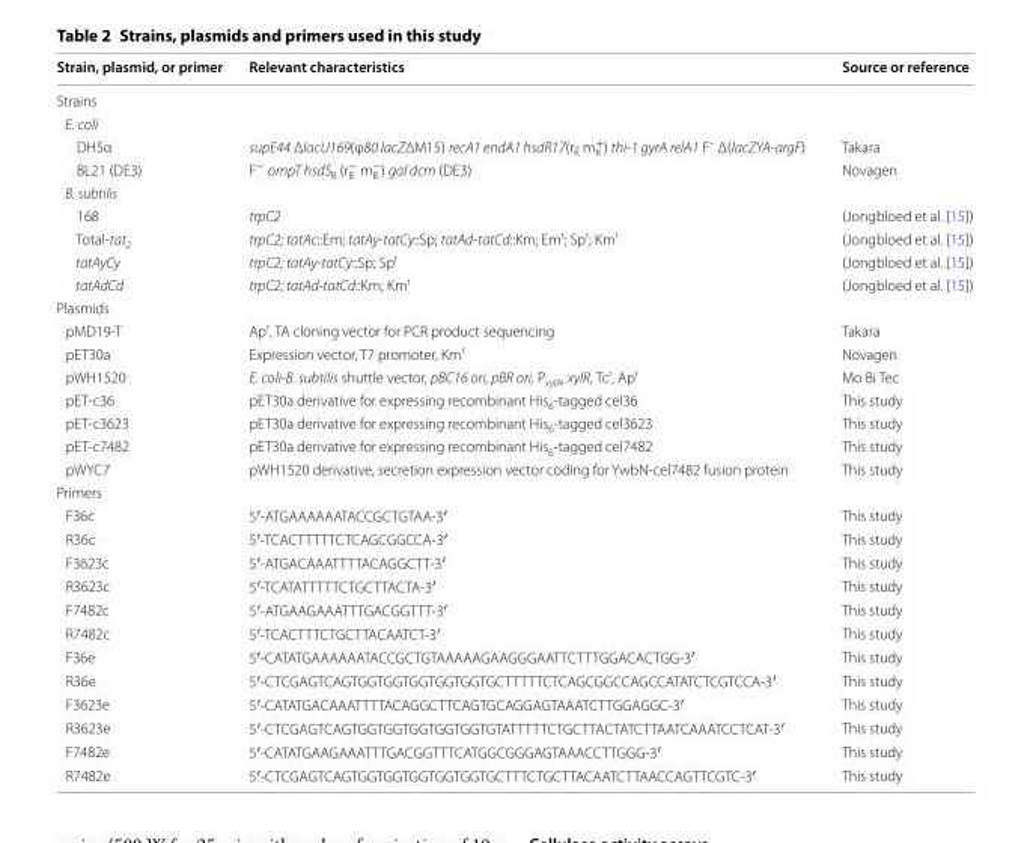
<table><thead><tr><td>Strain, plasmid, or primer</td><td>Relevant characteristics</td><td>Source or reference</td></tr></thead><tbody><tr><td colspan="3">Strains</td></tr><tr><td colspan="3">E. coli</td></tr><tr><td>DH5α</td><td>supE44 ΔlacU169(φ80 lacZΔM15) recA1 endA1 hsdR17(r<sub>K</sub> <sup>_</sup> m<sub>K</sub> <sup>+</sup>) thi‑1 gyrA relA1 F<sup>–</sup> Δ(lacZYA‑argF)</td><td>Takara</td></tr><tr><td>BL21 (DE3)</td><td>F<sup>−</sup> ompT hsdS<sub>B</sub> (r<sub>B</sub> <sup>−</sup> m<sub>B</sub> <sup>−</sup>) gal dcm (DE3)</td><td>Novagen</td></tr><tr><td colspan="3">B. subtilis</td></tr><tr><td>168</td><td>trpC2</td><td>(Jongbloed et al. [15])</td></tr><tr><td>Total‑tat<sub>2</sub></td><td>trpC2; tatAc::Em; tatAy‑tatCy::Sp; tatAd‑tatCd::Km; Em<sup>r</sup>; Sp<sup>r</sup>; Km<sup>r</sup></td><td>(Jongbloed et al. [15])</td></tr><tr><td>tatAyCy</td><td>trpC2; tatAy‑tatCy::Sp; Sp<sup>r</sup></td><td>(Jongbloed et al. [15])</td></tr><tr><td>tatAdCd</td><td>trpC2; tatAd‑tatCd::Km; Km<sup>r</sup></td><td>(Jongbloed et al. [15])</td></tr><tr><td colspan="3">Plasmids</td></tr><tr><td>pMD19‑T</td><td>Ap<sup>r</sup>, TA cloning vector for PCR product sequencing</td><td>Takara</td></tr><tr><td>pET30a</td><td>Expression vector, T7 promoter, Km<sup>r</sup></td><td>Novagen</td></tr><tr><td>pWH1520</td><td>E. coli‑B. subtilis shuttle vector, pBC16 ori, pBR ori, P<sub>xylA</sub>, xylR, Tc<sup>r</sup>, Ap<sup>r</sup></td><td>Mo Bi Tec</td></tr><tr><td>pET‑c36</td><td>pET30a derivative for expressing recombinant His<sub>6</sub>‑tagged cel36</td><td>This study</td></tr><tr><td>pET‑c3623</td><td>pET30a derivative for expressing recombinant His<sub>6</sub>‑tagged cel3623</td><td>This study</td></tr><tr><td>pET‑c7482</td><td>pET30a derivative for expressing recombinant His<sub>6</sub>‑tagged cel7482</td><td>This study</td></tr><tr><td>pWYC7</td><td>pWH1520 derivative, secretion expression vector coding for YwbN‑cel7482 fusion protein</td><td>This study</td></tr><tr><td colspan="3">Primers</td></tr><tr><td>F36c</td><td>5′‑ATGAAAAAATACCGCTGTAA‑3′</td><td>This study</td></tr><tr><td>R36c</td><td>5′‑TCACTTTTTCTCAGCGGCCA‑3′</td><td>This study</td></tr><tr><td>F3623c</td><td>5′‑ATGACAAATTTTACAGGCTT‑3′</td><td>This study</td></tr><tr><td>R3623c</td><td>5′‑TCATATTTTTCTGCTTACTA‑3′</td><td>This study</td></tr><tr><td>F7482c</td><td>5′‑ATGAAGAAATTTGACGGTTT‑3′</td><td>This study</td></tr><tr><td>R7482c</td><td>5′‑TCACTTTCTGCTTACAATCT‑3′</td><td>This study</td></tr><tr><td>F36e</td><td>5′‑CATATGAAAAAATACCGCTGTAAAAAGAAGGGAATTCTTTGGACACTGG‑3′</td><td>This study</td></tr><tr><td>R36e</td><td>5′‑CTCGAGTCAGTGGTGGTGGTGGTGGTGCTTTTTCTCAGCGGCCAGCCATATCTCGTCCA‑3′</td><td>This study</td></tr><tr><td>F3623e</td><td>5′‑CATATGACAAATTTTACAGGCTTCAGTGCAGGAGTAAATCTTGGAGGC‑3′</td><td>This study</td></tr><tr><td>R3623e</td><td>5′‑CTCGAGTCAGTGGTGGTGGTGGTGGTGTATTTTTCTGCTTACTATCTTAATCAAATCCTCAT‑3′</td><td>This study</td></tr><tr><td>F7482e</td><td>5′‑CATATGAAGAAATTTGACGGTTTCATGGCGGGAGTAAACCTTGGG‑3′</td><td>This study</td></tr><tr><td>R7482e</td><td>5′‑CTCGAGTCAGTGGTGGTGGTGGTGGTGCTTTCTGCTTACAATCTTAACCAGTTCGTC‑3′</td><td>This study</td></tr></tbody></table>